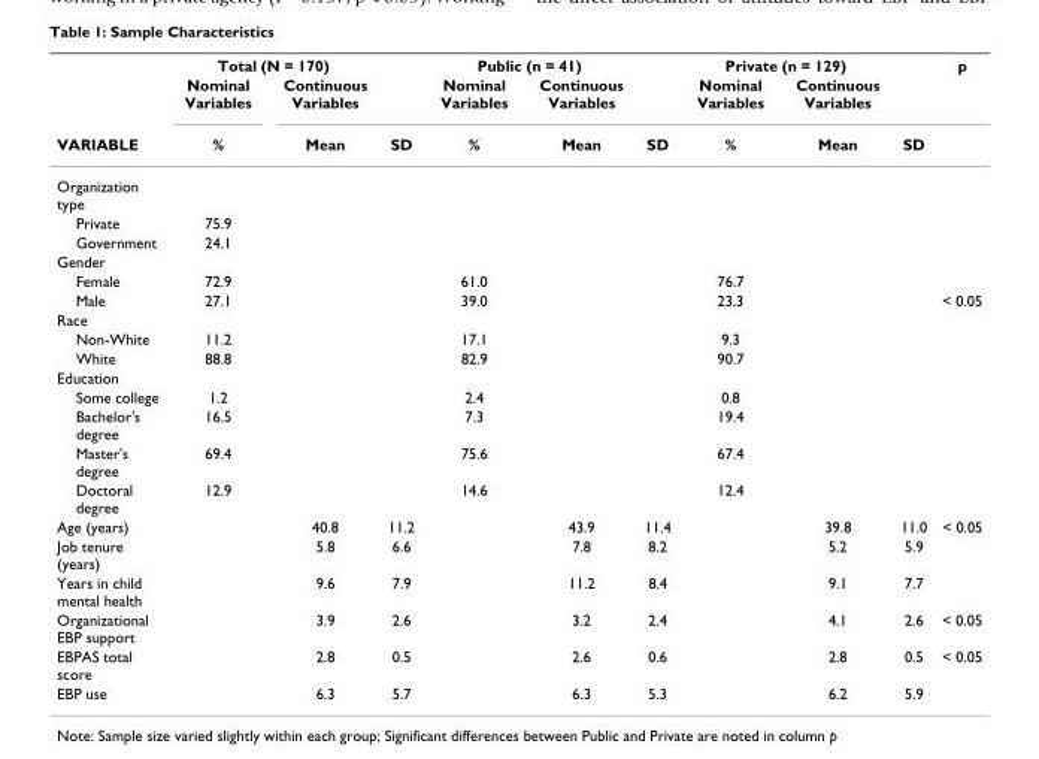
<table><thead><tr><td rowspan="3">VARIABLE</td><td colspan="2">Total (N = 170)</td><td rowspan="3">SD</td><td colspan="2">Public (n = 41)</td><td rowspan="3">SD</td><td colspan="2">Private (n = 129)</td><td rowspan="3">SD</td><td rowspan="3">p</td></tr><tr><td rowspan="2">Nominal Variables %</td><td rowspan="2">Continuous Variables Mean</td><td rowspan="2">Nominal Variables %</td><td rowspan="2">Continuous Variables Mean</td><td rowspan="2">Nominal Variables %</td><td rowspan="2">Continuous Variables Mean</td></tr><tr></tr></thead><tbody><tr><td colspan="11">Organization type</td></tr><tr><td>Private</td><td>75.9</td><td></td><td></td><td></td><td></td><td></td><td></td><td></td><td></td><td></td></tr><tr><td>Government</td><td>24.1</td><td></td><td></td><td></td><td></td><td></td><td></td><td></td><td></td><td></td></tr><tr><td colspan="11">Gender</td></tr><tr><td>Female</td><td>72.9</td><td></td><td></td><td>61.0</td><td></td><td></td><td>76.7</td><td></td><td></td><td></td></tr><tr><td>Male</td><td>27.1</td><td></td><td></td><td>39.0</td><td></td><td></td><td>23.3</td><td></td><td></td><td>&lt; 0.05</td></tr><tr><td colspan="11">Race</td></tr><tr><td>Non-White</td><td>11.2</td><td></td><td></td><td>17.1</td><td></td><td></td><td>9.3</td><td></td><td></td><td></td></tr><tr><td>White</td><td>88.8</td><td></td><td></td><td>82.9</td><td></td><td></td><td>90.7</td><td></td><td></td><td></td></tr><tr><td colspan="11">Education</td></tr><tr><td>Some college</td><td>1.2</td><td></td><td></td><td>2.4</td><td></td><td></td><td>0.8</td><td></td><td></td><td></td></tr><tr><td>Bachelor&#x27;s degree</td><td>16.5</td><td></td><td></td><td>7.3</td><td></td><td></td><td>19.4</td><td></td><td></td><td></td></tr><tr><td>Master&#x27;s degree</td><td>69.4</td><td></td><td></td><td>75.6</td><td></td><td></td><td>67.4</td><td></td><td></td><td></td></tr><tr><td>Doctoral degree</td><td>12.9</td><td></td><td></td><td>14.6</td><td></td><td></td><td>12.4</td><td></td><td></td><td></td></tr><tr><td>Age (years)</td><td></td><td>40.8</td><td>11.2</td><td></td><td>43.9</td><td>11.4</td><td></td><td>39.8</td><td>11.0</td><td>&lt; 0.05</td></tr><tr><td>Job tenure (years)</td><td></td><td>5.8</td><td>6.6</td><td></td><td>7.8</td><td>8.2</td><td></td><td>5.2</td><td>5.9</td><td></td></tr><tr><td>Years in child mental health</td><td></td><td>9.6</td><td>7.9</td><td></td><td>11.2</td><td>8.4</td><td></td><td>9.1</td><td>7.7</td><td></td></tr><tr><td>Organizational EBP support</td><td></td><td>3.9</td><td>2.6</td><td></td><td>3.2</td><td>2.4</td><td></td><td>4.1</td><td>2.6</td><td>&lt; 0.05</td></tr><tr><td>EBPAS total score</td><td></td><td>2.8</td><td>0.5</td><td></td><td>2.6</td><td>0.6</td><td></td><td>2.8</td><td>0.5</td><td>&lt; 0.05</td></tr><tr><td>EBP use</td><td></td><td>6.3</td><td>5.7</td><td></td><td>6.3</td><td>5.3</td><td></td><td>6.2</td><td>5.9</td><td></td></tr></tbody></table>